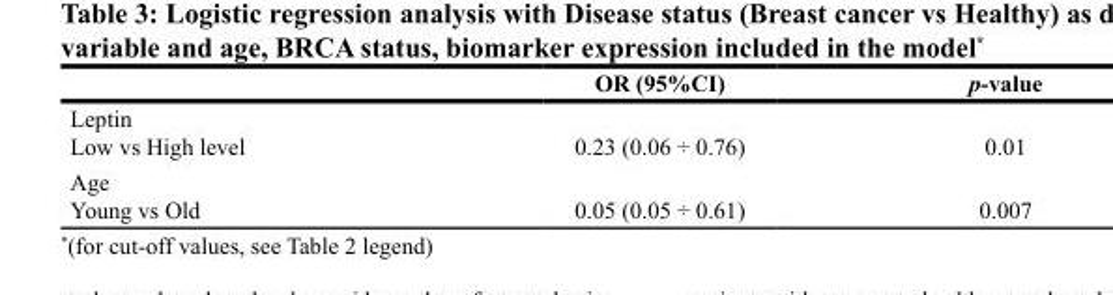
<table><thead><tr><td></td><td>OR (95%CI)</td><td>p-value</td></tr></thead><tbody><tr><td>Leptin Low vs High level</td><td>0.23 (0.06 ÷ 0.76)</td><td>0.01</td></tr><tr><td>Age Young vs Old</td><td>0.05 (0.05 ÷ 0.61)</td><td>0.007</td></tr></tbody></table>